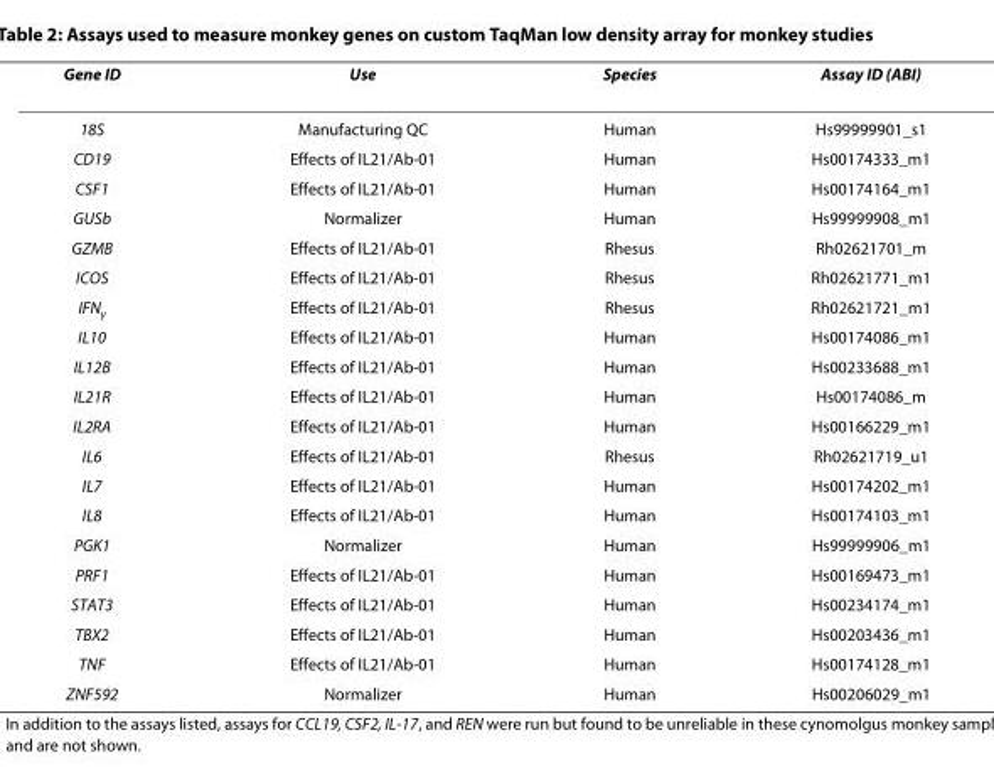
<table><thead><tr><td>Gene ID</td><td>Use</td><td>Species</td><td>Assay ID (ABI)</td></tr></thead><tbody><tr><td>18S</td><td>Manufacturing QC</td><td>Human</td><td>Hs99999901_s1</td></tr><tr><td>CD19</td><td>Effects of IL21/Ab-01</td><td>Human</td><td>Hs00174333_m1</td></tr><tr><td>CSF1</td><td>Effects of IL21/Ab-01</td><td>Human</td><td>Hs00174164_m1</td></tr><tr><td>GUSb</td><td>Normalizer</td><td>Human</td><td>Hs99999908_m1</td></tr><tr><td>GZMB</td><td>Effects of IL21/Ab-01</td><td>Rhesus</td><td>Rh02621701_m</td></tr><tr><td>ICOS</td><td>Effects of IL21/Ab-01</td><td>Rhesus</td><td>Rh02621771_m1</td></tr><tr><td>IFN<sub>γ</sub></td><td>Effects of IL21/Ab-01</td><td>Rhesus</td><td>Rh02621721_m1</td></tr><tr><td>IL10</td><td>Effects of IL21/Ab-01</td><td>Human</td><td>Hs00174086_m1</td></tr><tr><td>IL12B</td><td>Effects of IL21/Ab-01</td><td>Human</td><td>Hs00233688_m1</td></tr><tr><td>IL21R</td><td>Effects of IL21/Ab-01</td><td>Human</td><td>Hs00174086_m</td></tr><tr><td>IL2RA</td><td>Effects of IL21/Ab-01</td><td>Human</td><td>Hs00166229_m1</td></tr><tr><td>IL6</td><td>Effects of IL21/Ab-01</td><td>Rhesus</td><td>Rh02621719_u1</td></tr><tr><td>IL7</td><td>Effects of IL21/Ab-01</td><td>Human</td><td>Hs00174202_m1</td></tr><tr><td>IL8</td><td>Effects of IL21/Ab-01</td><td>Human</td><td>Hs00174103_m1</td></tr><tr><td>PGK1</td><td>Normalizer</td><td>Human</td><td>Hs99999906_m1</td></tr><tr><td>PRF1</td><td>Effects of IL21/Ab-01</td><td>Human</td><td>Hs00169473_m1</td></tr><tr><td>STAT3</td><td>Effects of IL21/Ab-01</td><td>Human</td><td>Hs00234174_m1</td></tr><tr><td>TBX2</td><td>Effects of IL21/Ab-01</td><td>Human</td><td>Hs00203436_m1</td></tr><tr><td>TNF</td><td>Effects of IL21/Ab-01</td><td>Human</td><td>Hs00174128_m1</td></tr><tr><td>ZNF592</td><td>Normalizer</td><td>Human</td><td>Hs00206029_m1</td></tr></tbody></table>